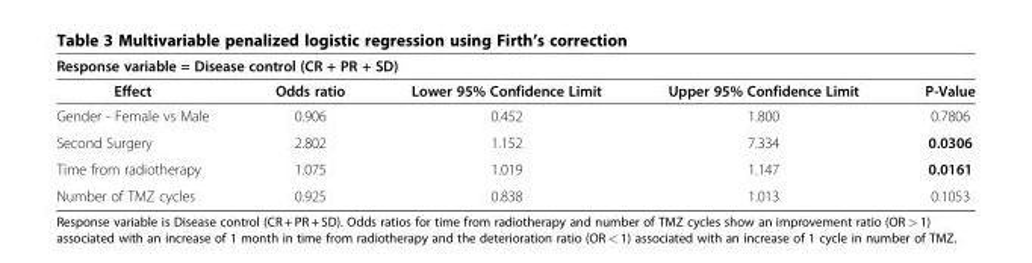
<table><thead><tr><td colspan="5">Response variable = Disease control (CR + PR + SD)</td></tr><tr><td>Effect</td><td>Odds ratio</td><td>Lower 95% Confidence Limit</td><td>Upper 95% Confidence Limit</td><td>P-Value</td></tr></thead><tbody><tr><td>Gender - Female vs Male</td><td>0.906</td><td>0.452</td><td>1.800</td><td>0.7806</td></tr><tr><td>Second Surgery</td><td>2.802</td><td>1.152</td><td>7.334</td><td>0.0306</td></tr><tr><td>Time from radiotherapy</td><td>1.075</td><td>1.019</td><td>1.147</td><td>0.0161</td></tr><tr><td>Number of TMZ cycles</td><td>0.925</td><td>0.838</td><td>1.013</td><td>0.1053</td></tr></tbody></table>